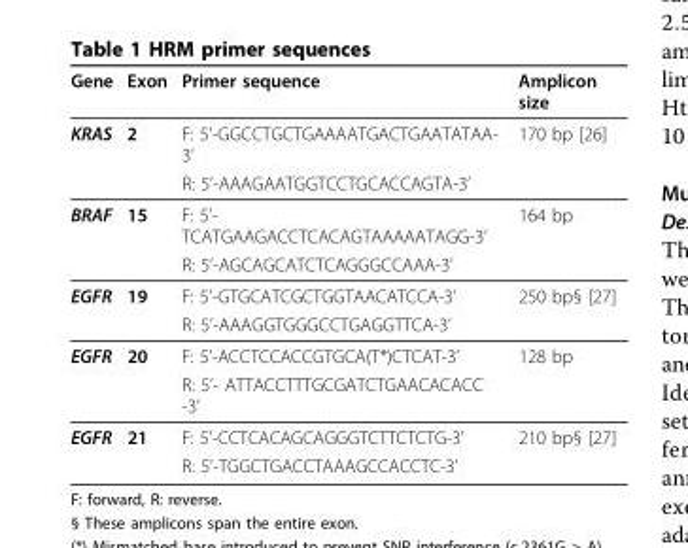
<table><thead><tr><td>Gene</td><td>Exon</td><td>Primer sequence</td><td>Amplicon size</td></tr></thead><tbody><tr><td rowspan="2">KRAS</td><td>2</td><td>F: 5’-GGCCTGCTGAAAATGACTGAATATAA- 3’</td><td>170 bp [26]</td></tr><tr><td></td><td>R: 5’-AAAGAATGGTCCTGCACCAGTA-3’</td><td></td></tr><tr><td rowspan="2">BRAF</td><td>15</td><td>F: 5’- TCATGAAGACCTCACAGTAAAAATAGG-3’</td><td>164 bp</td></tr><tr><td></td><td>R: 5’-AGCAGCATCTCAGGGCCAAA-3’</td><td></td></tr><tr><td rowspan="2">EGFR</td><td>19</td><td>F: 5’-GTGCATCGCTGGTAACATCCA-3’</td><td>250 bp§ [27]</td></tr><tr><td></td><td>R: 5’-AAAGGTGGGCCTGAGGTTCA-3’</td><td></td></tr><tr><td rowspan="2">EGFR</td><td>20</td><td>F: 5’-ACCTCCACCGTGCA(T*)CTCAT-3’</td><td>128 bp</td></tr><tr><td></td><td>R: 5’- ATTACCTTTGCGATCTGAACACACC -3’</td><td></td></tr><tr><td rowspan="2">EGFR</td><td>21</td><td>F: 5’-CCTCACAGCAGGGTCTTCTCTG-3’</td><td>210 bp§ [27]</td></tr><tr><td></td><td>R: 5’-TGGCTGACCTAAAGCCACCTC-3’</td><td></td></tr></tbody></table>